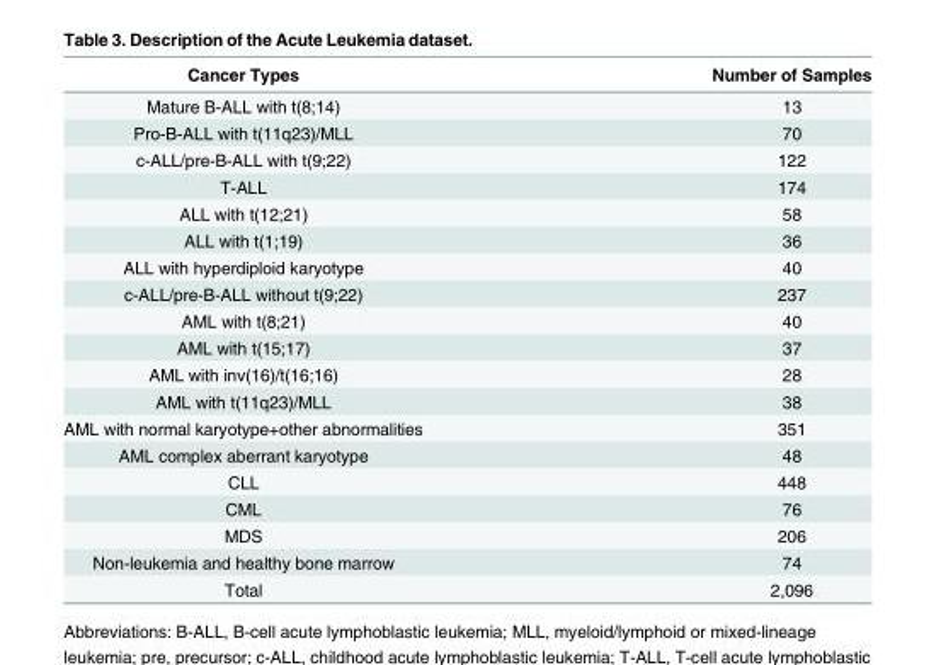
<table><thead><tr><td>Cancer Types</td><td>Number of Samples</td></tr></thead><tbody><tr><td>Mature B-ALL with t(8;14)</td><td>13</td></tr><tr><td>Pro-B-ALL with t(11q23)/MLL</td><td>70</td></tr><tr><td>c-ALL/pre-B-ALL with t(9;22)</td><td>122</td></tr><tr><td>T-ALL</td><td>174</td></tr><tr><td>ALL with t(12;21)</td><td>58</td></tr><tr><td>ALL with t(1;19)</td><td>36</td></tr><tr><td>ALL with hyperdiploid karyotype</td><td>40</td></tr><tr><td>c-ALL/pre-B-ALL without t(9;22)</td><td>237</td></tr><tr><td>AML with t(8;21)</td><td>40</td></tr><tr><td>AML with t(15;17)</td><td>37</td></tr><tr><td>AML with inv(16)/t(16;16)</td><td>28</td></tr><tr><td>AML with t(11q23)/MLL</td><td>38</td></tr><tr><td>AML with normal karyotype+other abnormalities</td><td>351</td></tr><tr><td>AML complex aberrant karyotype</td><td>48</td></tr><tr><td>CLL</td><td>448</td></tr><tr><td>CML</td><td>76</td></tr><tr><td>MDS</td><td>206</td></tr><tr><td>Non-leukemia and healthy bone marrow</td><td>74</td></tr><tr><td>Total</td><td>2,096</td></tr></tbody></table>